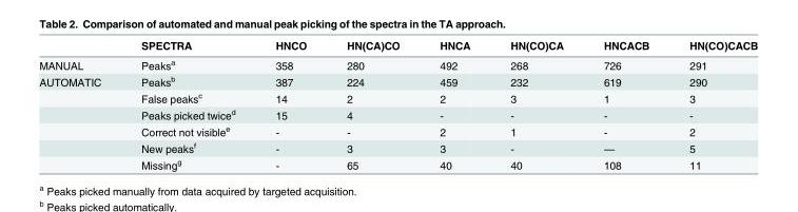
<table><thead><tr><td></td><td>SPECTRA</td><td>HNCO</td><td>HN(CA)CO</td><td>HNCA</td><td>HN(CO)CA</td><td>HNCACB</td><td>HN(CO)CACB</td></tr></thead><tbody><tr><td>MANUAL</td><td>Peaks<sup>a</sup></td><td>358</td><td>280</td><td>492</td><td>268</td><td>726</td><td>291</td></tr><tr><td rowspan="6">AUTOMATIC</td><td>Peaks<sup>b</sup></td><td>387</td><td>224</td><td>459</td><td>232</td><td>619</td><td>290</td></tr><tr><td>False peaks<sup>c</sup></td><td>14</td><td>2</td><td>2</td><td>3</td><td>1</td><td>3</td></tr><tr><td>Peaks picked twice<sup>d</sup></td><td>15</td><td>4</td><td>-</td><td>-</td><td>-</td><td>-</td></tr><tr><td>Correct not visible<sup>e</sup></td><td>-</td><td>-</td><td>2</td><td>1</td><td>-</td><td>2</td></tr><tr><td>New peaks<sup>f</sup></td><td>-</td><td>3</td><td>3</td><td>-</td><td>—</td><td>5</td></tr><tr><td>Missing<sup>g</sup></td><td>-</td><td>65</td><td>40</td><td>40</td><td>108</td><td>11</td></tr></tbody></table>